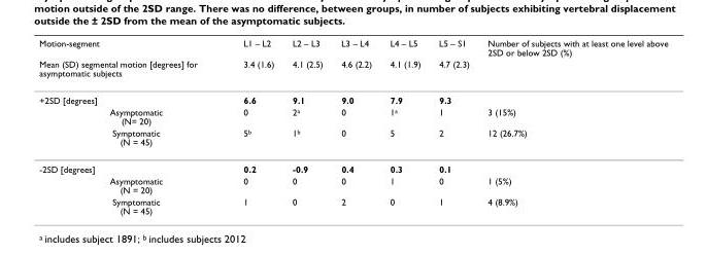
<table><thead><tr><td rowspan="2">Motion-segment Mean (SD) segmental motion [degrees] for asymptomatic subjects</td><td rowspan="2">L1 – L2 3.4 (1.6)</td><td rowspan="2">L2 – L3 4.1 (2.5)</td><td rowspan="2">L3 – L4 4.6 (2.2)</td><td rowspan="2">L4 – L5 4.1 (1.9)</td><td rowspan="2">L5 – S1 4.7 (2.3)</td><td rowspan="2">Number of subjects with at least one level above 2SD or below 2SD (%)</td></tr><tr></tr></thead><tbody><tr><td>+2SD [degrees]</td><td>6.6</td><td>9.1</td><td>9.0</td><td>7.9</td><td>9.3</td><td></td></tr><tr><td>Asymptomatic (N= 20)</td><td>0</td><td>2a</td><td>0</td><td>1a</td><td>1</td><td>3 (15%)</td></tr><tr><td>Symptomatic (N = 45)</td><td>5b</td><td>1b</td><td>0</td><td>5</td><td>2</td><td>12 (26.7%)</td></tr><tr><td>-2SD [degrees]</td><td>0.2</td><td>-0.9</td><td>0.4</td><td>0.3</td><td>0.1</td><td></td></tr><tr><td>Asymptomatic (N = 20)</td><td>0</td><td>0</td><td>0</td><td>1</td><td>0</td><td>1 (5%)</td></tr><tr><td>Symptomatic (N = 45)</td><td>1</td><td>0</td><td>2</td><td>0</td><td>1</td><td>4 (8.9%)</td></tr></tbody></table>